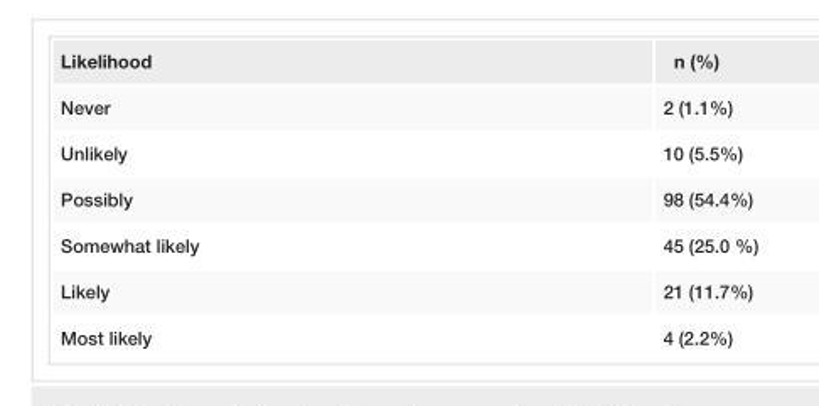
<table><tbody><tr><td>Likelihood</td><td>n (%)</td></tr><tr><td>Never</td><td>2 (1.1%)</td></tr><tr><td>Unlikely</td><td>10 (5.5%)</td></tr><tr><td>Possibly</td><td>98 (54.4%)</td></tr><tr><td>Somewhat likely</td><td>45 (25.0 %)</td></tr><tr><td>Likely</td><td>21 (11.7%)</td></tr><tr><td>Most likely</td><td>4 (2.2%)</td></tr></tbody></table>